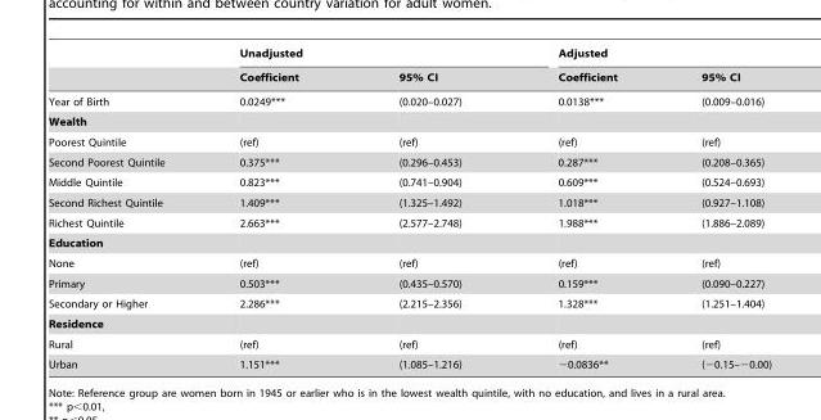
<table><thead><tr><td rowspan="2"></td><td colspan="2">Unadjusted</td><td colspan="2">Adjusted</td></tr><tr><td>Coefficient</td><td>95% CI</td><td>Coefficient</td><td>95% CI</td></tr></thead><tbody><tr><td>Year of Birth</td><td>0.0249***</td><td>(0.020–0.027)</td><td>0.0138***</td><td>(0.009–0.016)</td></tr><tr><td colspan="5">Wealth</td></tr><tr><td>Poorest Quintile</td><td>(ref)</td><td>(ref)</td><td>(ref)</td><td>(ref)</td></tr><tr><td>Second Poorest Quintile</td><td>0.375***</td><td>(0.296–0.453)</td><td>0.287***</td><td>(0.208–0.365)</td></tr><tr><td>Middle Quintile</td><td>0.823***</td><td>(0.741–0.904)</td><td>0.609***</td><td>(0.524–0.693)</td></tr><tr><td>Second Richest Quintile</td><td>1.409***</td><td>(1.325–1.492)</td><td>1.018***</td><td>(0.927–1.108)</td></tr><tr><td>Richest Quintile</td><td>2.663***</td><td>(2.577–2.748)</td><td>1.988***</td><td>(1.886–2.089)</td></tr><tr><td colspan="5">Education</td></tr><tr><td>None</td><td>(ref)</td><td>(ref)</td><td>(ref)</td><td>(ref)</td></tr><tr><td>Primary</td><td>0.503***</td><td>(0.435–0.570)</td><td>0.159***</td><td>(0.090–0.227)</td></tr><tr><td>Secondary or Higher</td><td>2.286***</td><td>(2.215–2.356)</td><td>1.328***</td><td>(1.251–1.404)</td></tr><tr><td colspan="5">Residence</td></tr><tr><td>Rural</td><td>(ref)</td><td>(ref)</td><td>(ref)</td><td>(ref)</td></tr><tr><td>Urban</td><td>1.151***</td><td>(1.085–1.216)</td><td>−0.0836**</td><td>(−0.15–−0.00)</td></tr></tbody></table>